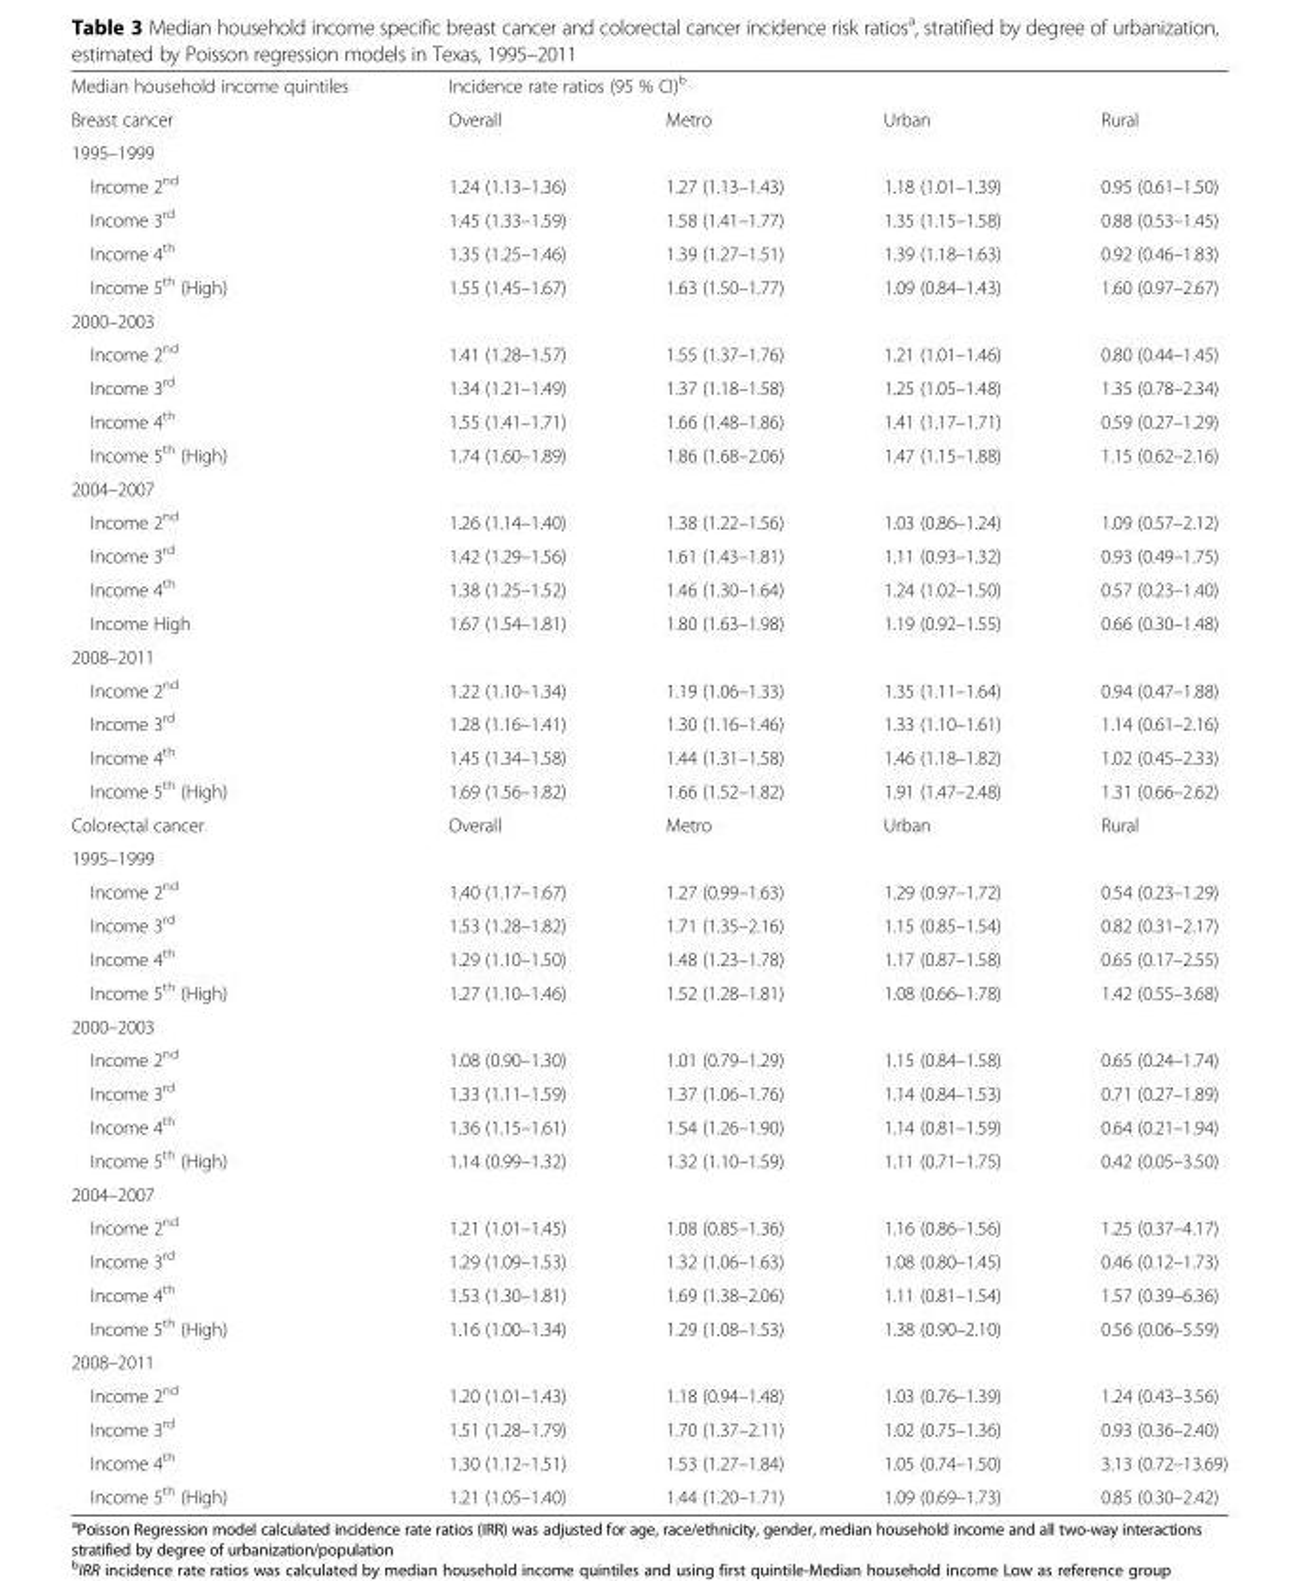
<table><tbody><tr><td>Median household income quintiles</td><td colspan="4">Incidence rate ratios (95 % CI)<sup>b</sup></td></tr><tr><td>Breast cancer</td><td>Overall</td><td>Metro</td><td>Urban</td><td>Rural</td></tr><tr><td colspan="5">1995–1999</td></tr><tr><td>Income 2<sup>nd</sup></td><td>1.24 (1.13–1.36)</td><td>1.27 (1.13–1.43)</td><td>1.18 (1.01–1.39)</td><td>0.95 (0.61–1.50)</td></tr><tr><td>Income 3<sup>rd</sup></td><td>1.45 (1.33–1.59)</td><td>1.58 (1.41–1.77)</td><td>1.35 (1.15–1.58)</td><td>0.88 (0.53–1.45)</td></tr><tr><td>Income 4<sup>th</sup></td><td>1.35 (1.25–1.46)</td><td>1.39 (1.27–1.51)</td><td>1.39 (1.18–1.63)</td><td>0.92 (0.46–1.83)</td></tr><tr><td>Income 5<sup>th</sup> (High)</td><td>1.55 (1.45–1.67)</td><td>1.63 (1.50–1.77)</td><td>1.09 (0.84–1.43)</td><td>1.60 (0.97–2.67)</td></tr><tr><td colspan="5">2000–2003</td></tr><tr><td>Income 2<sup>nd</sup></td><td>1.41 (1.28–1.57)</td><td>1.55 (1.37–1.76)</td><td>1.21 (1.01–1.46)</td><td>0.80 (0.44–1.45)</td></tr><tr><td>Income 3<sup>rd</sup></td><td>1.34 (1.21–1.49)</td><td>1.37 (1.18–1.58)</td><td>1.25 (1.05–1.48)</td><td>1.35 (0.78–2.34)</td></tr><tr><td>Income 4<sup>th</sup></td><td>1.55 (1.41–1.71)</td><td>1.66 (1.48–1.86)</td><td>1.41 (1.17–1.71)</td><td>0.59 (0.27–1.29)</td></tr><tr><td>Income 5<sup>th</sup> (High)</td><td>1.74 (1.60–1.89)</td><td>1.86 (1.68–2.06)</td><td>1.47 (1.15–1.88)</td><td>1.15 (0.62–2.16)</td></tr><tr><td colspan="5">2004–2007</td></tr><tr><td>Income 2<sup>nd</sup></td><td>1.26 (1.14–1.40)</td><td>1.38 (1.22–1.56)</td><td>1.03 (0.86–1.24)</td><td>1.09 (0.57–2.12)</td></tr><tr><td>Income 3<sup>rd</sup></td><td>1.42 (1.29–1.56)</td><td>1.61 (1.43–1.81)</td><td>1.11 (0.93–1.32)</td><td>0.93 (0.49–1.75)</td></tr><tr><td>Income 4<sup>th</sup></td><td>1.38 (1.25–1.52)</td><td>1.46 (1.30–1.64)</td><td>1.24 (1.02–1.50)</td><td>0.57 (0.23–1.40)</td></tr><tr><td>Income High</td><td>1.67 (1.54–1.81)</td><td>1.80 (1.63–1.98)</td><td>1.19 (0.92–1.55)</td><td>0.66 (0.30–1.48)</td></tr><tr><td colspan="5">2008–2011</td></tr><tr><td>Income 2<sup>nd</sup></td><td>1.22 (1.10–1.34)</td><td>1.19 (1.06–1.33)</td><td>1.35 (1.11–1.64)</td><td>0.94 (0.47–1.88)</td></tr><tr><td>Income 3<sup>rd</sup></td><td>1.28 (1.16–1.41)</td><td>1.30 (1.16–1.46)</td><td>1.33 (1.10–1.61)</td><td>1.14 (0.61–2.16)</td></tr><tr><td>Income 4<sup>th</sup></td><td>1.45 (1.34–1.58)</td><td>1.44 (1.31–1.58)</td><td>1.46 (1.18–1.82)</td><td>1.02 (0.45–2.33)</td></tr><tr><td>Income 5<sup>th</sup> (High)</td><td>1.69 (1.56–1.82)</td><td>1.66 (1.52–1.82)</td><td>1.91 (1.47–2.48)</td><td>1.31 (0.66–2.62)</td></tr><tr><td>Colorectal cancer</td><td>Overall</td><td>Metro</td><td>Urban</td><td>Rural</td></tr><tr><td colspan="5">1995–1999</td></tr><tr><td>Income 2<sup>nd</sup></td><td>1.40 (1.17–1.67)</td><td>1.27 (0.99–1.63)</td><td>1.29 (0.97–1.72)</td><td>0.54 (0.23–1.29)</td></tr><tr><td>Income 3<sup>rd</sup></td><td>1.53 (1.28–1.82)</td><td>1.71 (1.35–2.16)</td><td>1.15 (0.85–1.54)</td><td>0.82 (0.31–2.17)</td></tr><tr><td>Income 4<sup>th</sup></td><td>1.29 (1.10–1.50)</td><td>1.48 (1.23–1.78)</td><td>1.17 (0.87–1.58)</td><td>0.65 (0.17–2.55)</td></tr><tr><td>Income 5<sup>th</sup> (High)</td><td>1.27 (1.10–1.46)</td><td>1.52 (1.28–1.81)</td><td>1.08 (0.66–1.78)</td><td>1.42 (0.55–3.68)</td></tr><tr><td colspan="5">2000–2003</td></tr><tr><td>Income 2<sup>nd</sup></td><td>1.08 (0.90–1.30)</td><td>1.01 (0.79–1.29)</td><td>1.15 (0.84–1.58)</td><td>0.65 (0.24–1.74)</td></tr><tr><td>Income 3<sup>rd</sup></td><td>1.33 (1.11–1.59)</td><td>1.37 (1.06–1.76)</td><td>1.14 (0.84–1.53)</td><td>0.71 (0.27–1.89)</td></tr><tr><td>Income 4<sup>th</sup></td><td>1.36 (1.15–1.61)</td><td>1.54 (1.26–1.90)</td><td>1.14 (0.81–1.59)</td><td>0.64 (0.21–1.94)</td></tr><tr><td>Income 5<sup>th</sup> (High)</td><td>1.14 (0.99–1.32)</td><td>1.32 (1.10–1.59)</td><td>1.11 (0.71–1.75)</td><td>0.42 (0.05–3.50)</td></tr><tr><td colspan="5">2004–2007</td></tr><tr><td>Income 2<sup>nd</sup></td><td>1.21 (1.01–1.45)</td><td>1.08 (0.85–1.36)</td><td>1.16 (0.86–1.56)</td><td>1.25 (0.37–4.17)</td></tr><tr><td>Income 3<sup>rd</sup></td><td>1.29 (1.09–1.53)</td><td>1.32 (1.06–1.63)</td><td>1.08 (0.80–1.45)</td><td>0.46 (0.12–1.73)</td></tr><tr><td>Income 4<sup>th</sup></td><td>1.53 (1.30–1.81)</td><td>1.69 (1.38–2.06)</td><td>1.11 (0.81–1.54)</td><td>1.57 (0.39–6.36)</td></tr><tr><td>Income 5<sup>th</sup> (High)</td><td>1.16 (1.00–1.34)</td><td>1.29 (1.08–1.53)</td><td>1.38 (0.90–2.10)</td><td>0.56 (0.06–5.59)</td></tr><tr><td colspan="5">2008–2011</td></tr><tr><td>Income 2<sup>nd</sup></td><td>1.20 (1.01–1.43)</td><td>1.18 (0.94–1.48)</td><td>1.03 (0.76–1.39)</td><td>1.24 (0.43–3.56)</td></tr><tr><td>Income 3<sup>rd</sup></td><td>1.51 (1.28–1.79)</td><td>1.70 (1.37–2.11)</td><td>1.02 (0.75–1.36)</td><td>0.93 (0.36–2.40)</td></tr><tr><td>Income 4<sup>th</sup></td><td>1.30 (1.12–1.51)</td><td>1.53 (1.27–1.84)</td><td>1.05 (0.74–1.50)</td><td>3.13 (0.72–13.69)</td></tr><tr><td>Income 5<sup>th</sup> (High)</td><td>1.21 (1.05–1.40)</td><td>1.44 (1.20–1.71)</td><td>1.09 (0.69–1.73)</td><td>0.85 (0.30–2.42)</td></tr></tbody></table>